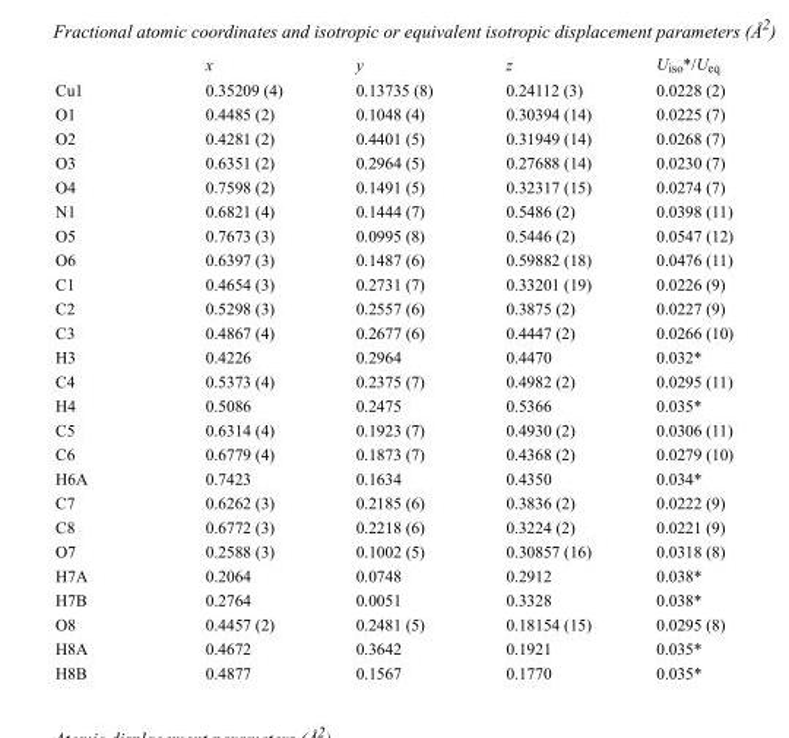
<table><thead><tr><td></td><td>x</td><td>y</td><td>z</td><td>U<sub>iso</sub>*/U<sub>eq</sub></td></tr></thead><tbody><tr><td>Cu1</td><td>0.35209 (4)</td><td>0.13735 (8)</td><td>0.24112 (3)</td><td>0.0228 (2)</td></tr><tr><td>O1</td><td>0.4485 (2)</td><td>0.1048 (4)</td><td>0.30394 (14)</td><td>0.0225 (7)</td></tr><tr><td>O2</td><td>0.4281 (2)</td><td>0.4401 (5)</td><td>0.31949 (14)</td><td>0.0268 (7)</td></tr><tr><td>O3</td><td>0.6351 (2)</td><td>0.2964 (5)</td><td>0.27688 (14)</td><td>0.0230 (7)</td></tr><tr><td>O4</td><td>0.7598 (2)</td><td>0.1491 (5)</td><td>0.32317 (15)</td><td>0.0274 (7)</td></tr><tr><td>N1</td><td>0.6821 (4)</td><td>0.1444 (7)</td><td>0.5486 (2)</td><td>0.0398 (11)</td></tr><tr><td>O5</td><td>0.7673 (3)</td><td>0.0995 (8)</td><td>0.5446 (2)</td><td>0.0547 (12)</td></tr><tr><td>O6</td><td>0.6397 (3)</td><td>0.1487 (6)</td><td>0.59882 (18)</td><td>0.0476 (11)</td></tr><tr><td>C1</td><td>0.4654 (3)</td><td>0.2731 (7)</td><td>0.33201 (19)</td><td>0.0226 (9)</td></tr><tr><td>C2</td><td>0.5298 (3)</td><td>0.2557 (6)</td><td>0.3875 (2)</td><td>0.0227 (9)</td></tr><tr><td>C3</td><td>0.4867 (4)</td><td>0.2677 (6)</td><td>0.4447 (2)</td><td>0.0266 (10)</td></tr><tr><td>H3</td><td>0.4226</td><td>0.2964</td><td>0.4470</td><td>0.032*</td></tr><tr><td>C4</td><td>0.5373 (4)</td><td>0.2375 (7)</td><td>0.4982 (2)</td><td>0.0295 (11)</td></tr><tr><td>H4</td><td>0.5086</td><td>0.2475</td><td>0.5366</td><td>0.035*</td></tr><tr><td>C5</td><td>0.6314 (4)</td><td>0.1923 (7)</td><td>0.4930 (2)</td><td>0.0306 (11)</td></tr><tr><td>C6</td><td>0.6779 (4)</td><td>0.1873 (7)</td><td>0.4368 (2)</td><td>0.0279 (10)</td></tr><tr><td>H6A</td><td>0.7423</td><td>0.1634</td><td>0.4350</td><td>0.034*</td></tr><tr><td>C7</td><td>0.6262 (3)</td><td>0.2185 (6)</td><td>0.3836 (2)</td><td>0.0222 (9)</td></tr><tr><td>C8</td><td>0.6772 (3)</td><td>0.2218 (6)</td><td>0.3224 (2)</td><td>0.0221 (9)</td></tr><tr><td>O7</td><td>0.2588 (3)</td><td>0.1002 (5)</td><td>0.30857 (16)</td><td>0.0318 (8)</td></tr><tr><td>H7A</td><td>0.2064</td><td>0.0748</td><td>0.2912</td><td>0.038*</td></tr><tr><td>H7B</td><td>0.2764</td><td>0.0051</td><td>0.3328</td><td>0.038*</td></tr><tr><td>O8</td><td>0.4457 (2)</td><td>0.2481 (5)</td><td>0.18154 (15)</td><td>0.0295 (8)</td></tr><tr><td>H8A</td><td>0.4672</td><td>0.3642</td><td>0.1921</td><td>0.035*</td></tr><tr><td>H8B</td><td>0.4877</td><td>0.1567</td><td>0.1770</td><td>0.035*</td></tr></tbody></table>